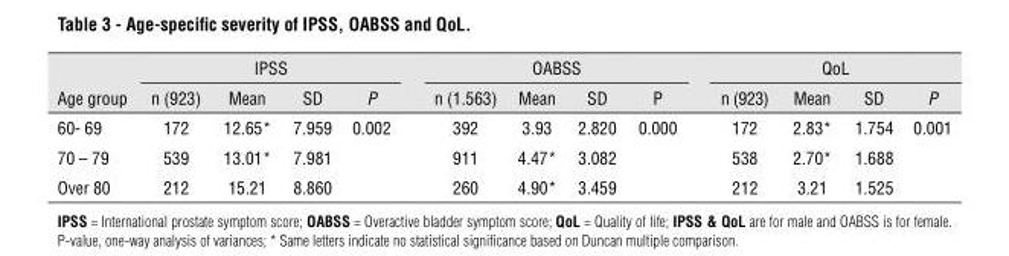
<table><thead><tr><td rowspan="2">Age group</td><td colspan="4">IPSS</td><td colspan="4">OABSS</td><td colspan="4">QoL</td></tr><tr><td>n (923)</td><td>Mean</td><td>SD</td><td>P</td><td>n (1.563)</td><td>Mean</td><td>SD</td><td>P</td><td>n (923)</td><td>Mean</td><td>SD</td><td>P</td></tr></thead><tbody><tr><td>60- 69</td><td>172</td><td>12.65*</td><td>7.959</td><td>0.002</td><td>392</td><td>3.93</td><td>2.820</td><td>0.000</td><td>172</td><td>2.83*</td><td>1.754</td><td>0.001</td></tr><tr><td>70 – 79</td><td>539</td><td>13.01*</td><td>7.981</td><td></td><td>911</td><td>4.47*</td><td>3.082</td><td></td><td>538</td><td>2.70*</td><td>1.688</td><td></td></tr><tr><td>Over 80</td><td>212</td><td>15.21</td><td>8.860</td><td></td><td>260</td><td>4.90*</td><td>3.459</td><td></td><td>212</td><td>3.21</td><td>1.525</td><td></td></tr></tbody></table>